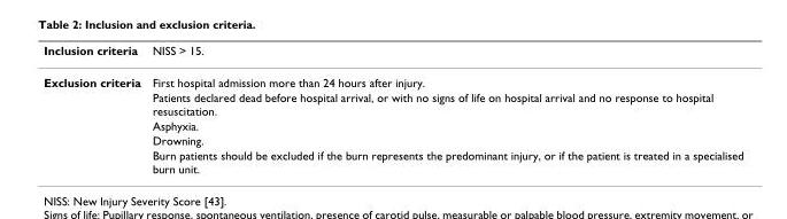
<table><thead><tr><td>Inclusion criteria</td><td>NISS &gt; 15.</td></tr></thead><tbody><tr><td rowspan="5">Exclusion criteria</td><td>First hospital admission more than 24 hours after injury.</td></tr><tr><td>Patients declared dead before hospital arrival, or with no signs of life on hospital arrival and no response to hospital resuscitation.</td></tr><tr><td>Asphyxia.</td></tr><tr><td>Drowning.</td></tr><tr><td>Burn patients should be excluded if the burn represents the predominant injury, or if the patient is treated in a specialised burn unit.</td></tr></tbody></table>